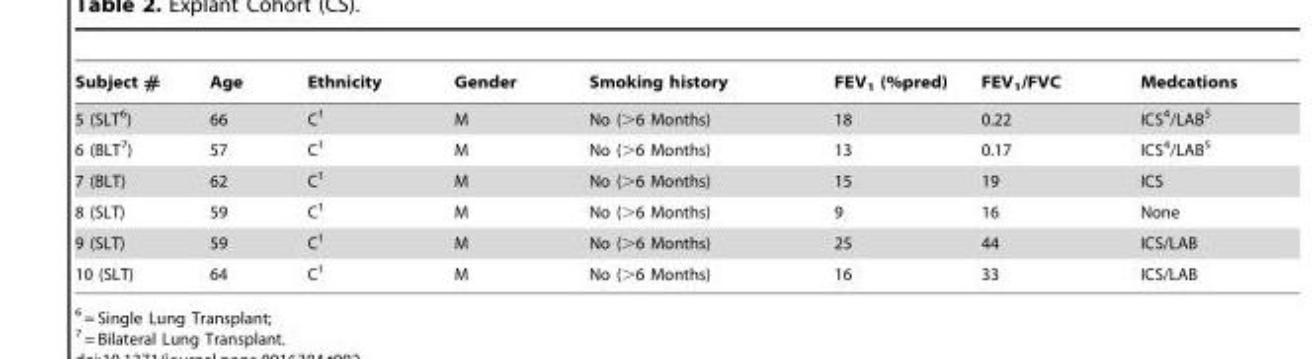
<table><thead><tr><td>Subject #</td><td>Age</td><td>Ethnicity</td><td>Gender</td><td>Smoking history</td><td>FEV<sub>1</sub> (%pred)</td><td>FEV<sub>1</sub>/FVC</td><td>Medcations</td></tr></thead><tbody><tr><td>5 (SLT<sup>6</sup>)</td><td>66</td><td>C<sup>1</sup></td><td>M</td><td>No (&gt;6 Months)</td><td>18</td><td>0.22</td><td>ICS<sup>4</sup>/LAB<sup>5</sup></td></tr><tr><td>6 (BLT<sup>7</sup>)</td><td>57</td><td>C<sup>1</sup></td><td>M</td><td>No (&gt;6 Months)</td><td>13</td><td>0.17</td><td>ICS<sup>4</sup>/LAB<sup>5</sup></td></tr><tr><td>7 (BLT)</td><td>62</td><td>C<sup>1</sup></td><td>M</td><td>No (&gt;6 Months)</td><td>15</td><td>19</td><td>ICS</td></tr><tr><td>8 (SLT)</td><td>59</td><td>C<sup>1</sup></td><td>M</td><td>No (&gt;6 Months)</td><td>9</td><td>16</td><td>None</td></tr><tr><td>9 (SLT)</td><td>59</td><td>C<sup>1</sup></td><td>M</td><td>No (&gt;6 Months)</td><td>25</td><td>44</td><td>ICS/LAB</td></tr><tr><td>10 (SLT)</td><td>64</td><td>C<sup>1</sup></td><td>M</td><td>No (&gt;6 Months)</td><td>16</td><td>33</td><td>ICS/LAB</td></tr></tbody></table>